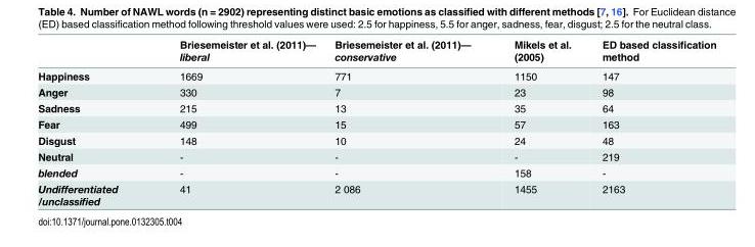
<table><thead><tr><td></td><td>Briesemeister et al. (2011)— liberal</td><td>Briesemeister et al. (2011)— conservative</td><td>Mikels et al. (2005)</td><td>ED based classification method</td></tr></thead><tbody><tr><td>Happiness</td><td>1669</td><td>771</td><td>1150</td><td>147</td></tr><tr><td>Anger</td><td>330</td><td>7</td><td>23</td><td>98</td></tr><tr><td>Sadness</td><td>215</td><td>13</td><td>35</td><td>64</td></tr><tr><td>Fear</td><td>499</td><td>15</td><td>57</td><td>163</td></tr><tr><td>Disgust</td><td>148</td><td>10</td><td>24</td><td>48</td></tr><tr><td>Neutral</td><td>-</td><td>-</td><td>-</td><td>219</td></tr><tr><td>blended</td><td>-</td><td>-</td><td>158</td><td>-</td></tr><tr><td>Undifferentiated /unclassified</td><td>41</td><td>2 086</td><td>1455</td><td>2163</td></tr></tbody></table>